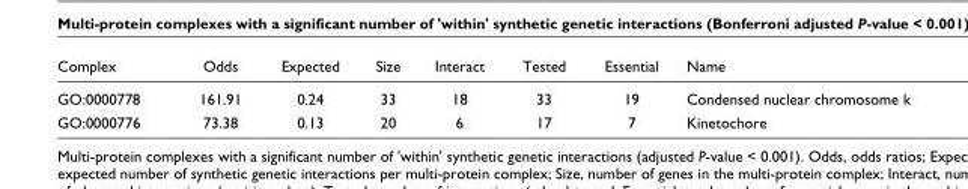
<table><thead><tr><td>Complex</td><td>Odds</td><td>Expected</td><td>Size</td><td>Interact</td><td>Tested</td><td>Essential</td><td>Name</td></tr></thead><tbody><tr><td>GO:0000778</td><td>161.91</td><td>0.24</td><td>33</td><td>18</td><td>33</td><td>19</td><td>Condensed nuclear chromosome k</td></tr><tr><td>GO:0000776</td><td>73.38</td><td>0.13</td><td>20</td><td>6</td><td>17</td><td>7</td><td>Kinetochore</td></tr></tbody></table>